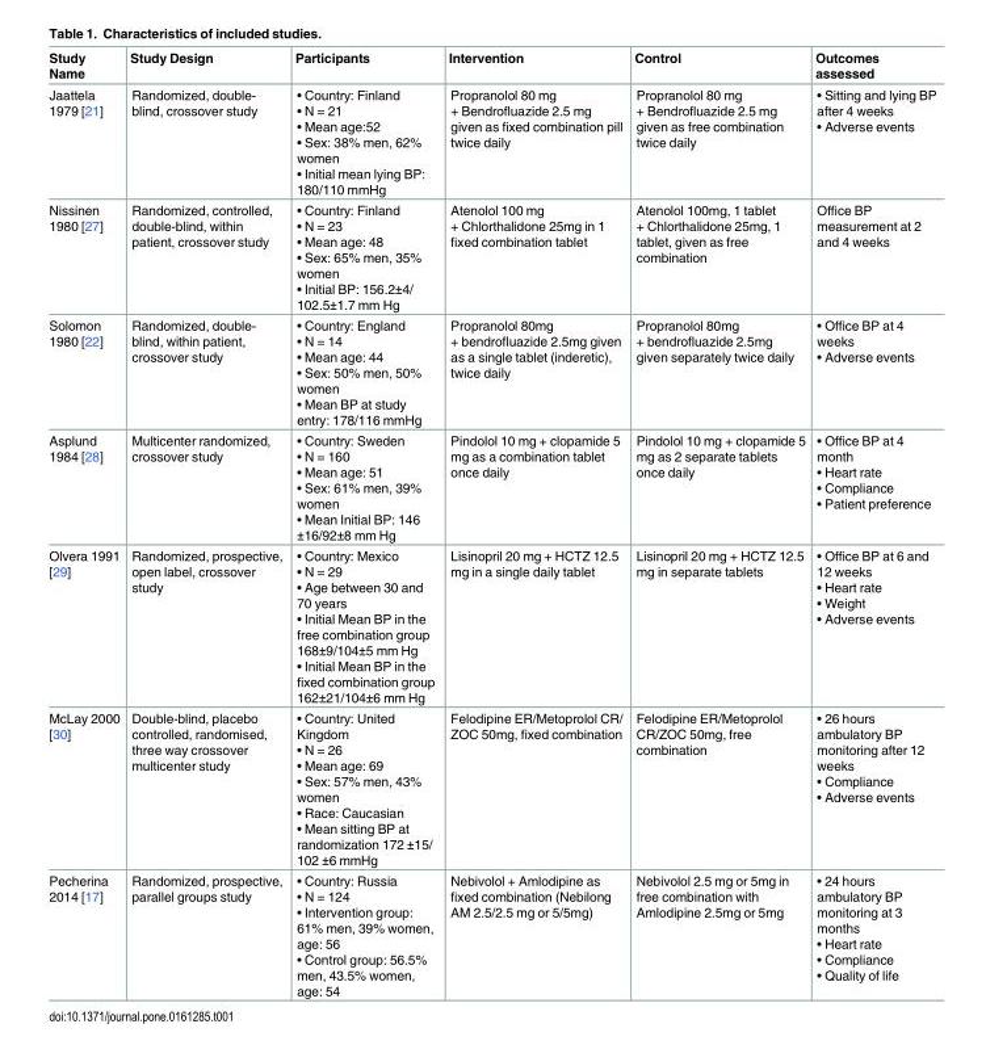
<table><thead><tr><td>Study Name</td><td>Study Design</td><td>Participants</td><td>Intervention</td><td>Control</td><td>Outcomes assessed</td></tr></thead><tbody><tr><td>Jaattela 1979 [21]</td><td>Randomized, double- blind, crossover study</td><td>• Country: Finland • N = 21 • Mean age:52 • Sex: 38% men, 62% women • Initial mean lying BP: 180/110 mmHg</td><td>Propranolol 80 mg + Bendrofluazide 2.5 mg given as fixed combination pill twice daily</td><td>Propranolol 80 mg + Bendrofluazide 2.5 mg given as free combination twice daily</td><td>• Sitting and lying BP after 4 weeks • Adverse events</td></tr><tr><td>Nissinen 1980 [27]</td><td>Randomized, controlled, double-blind, within patient, crossover study</td><td>• Country: Finland • N = 23 • Mean age: 48 • Sex: 65% men, 35% women • Initial BP: 156.2±4/ 102.5±1.7 mm Hg</td><td>Atenolol 100 mg + Chlorthalidone 25mg in 1 fixed combination tablet</td><td>Atenolol 100mg, 1 tablet + Chlorthalidone 25mg, 1 tablet, given as free combination</td><td>Office BP measurement at 2 and 4 weeks</td></tr><tr><td>Solomon 1980 [22]</td><td>Randomized, double- blind, within patient, crossover study</td><td>• Country: England • N = 14 • Mean age: 44 • Sex: 50% men, 50% women • Mean BP at study entry: 178/116 mmHg</td><td>Propranolol 80mg + bendrofluazide 2.5mg given as a single tablet (inderetic), twice daily</td><td>Propranolol 80mg + bendrofluazide 2.5mg given separately twice daily</td><td>• Office BP at 4 weeks • Adverse events</td></tr><tr><td>Asplund 1984 [28]</td><td>Multicenter randomized, crossover study</td><td>• Country: Sweden • N = 160 • Mean age: 51 • Sex: 61% men, 39% women • Mean Initial BP: 146 ±16/92±8 mm Hg</td><td>Pindolol 10 mg + clopamide 5 mg as a combination tablet once daily</td><td>Pindolol 10 mg + clopamide 5 mg as 2 separate tablets once daily</td><td>• Office BP at 4 month • Heart rate • Compliance • Patient preference</td></tr><tr><td>Olvera 1991 [29]</td><td>Randomized, prospective, open label, crossover study</td><td>• Country: Mexico • N = 29 • Age between 30 and 70 years • Initial Mean BP in the free combination group 168±9/104±5 mm Hg • Initial Mean BP in the fixed combination group 162±21/104±6 mm Hg</td><td>Lisinopril 20 mg + HCTZ 12.5 mg in a single daily tablet</td><td>Lisinopril 20 mg + HCTZ 12.5 mg in separate tablets</td><td>• Office BP at 6 and 12 weeks • Heart rate • Weight • Adverse events</td></tr><tr><td>McLay 2000 [30]</td><td>Double-blind, placebo controlled, randomised, three way crossover multicenter study</td><td>• Country: United Kingdom • N = 26 • Mean age: 69 • Sex: 57% men, 43% women • Race: Caucasian • Mean sitting BP at randomization 172 ±15/ 102 ±6 mmHg</td><td>Felodipine ER/Metoprolol CR/ ZOC 50mg, fixed combination</td><td>Felodipine ER/Metoprolol CR/ZOC 50mg, free combination</td><td>• 26 hours ambulatory BP monitoring after 12 weeks • Compliance • Adverse events</td></tr><tr><td>Pecherina 2014 [17]</td><td>Randomized, prospective, parallel groups study</td><td>• Country: Russia • N = 124 • Intervention group: 61% men, 39% women, age: 56 • Control group: 56.5% men, 43.5% women, age: 54</td><td>Nebivolol + Amlodipine as fixed combination (Nebilong AM 2.5/2.5 mg or 5/5mg)</td><td>Nebivolol 2.5 mg or 5mg in free combination with Amlodipine 2.5mg or 5mg</td><td>• 24 hours ambulatory BP monitoring at 3 months • Heart rate • Compliance • Quality of life</td></tr></tbody></table>